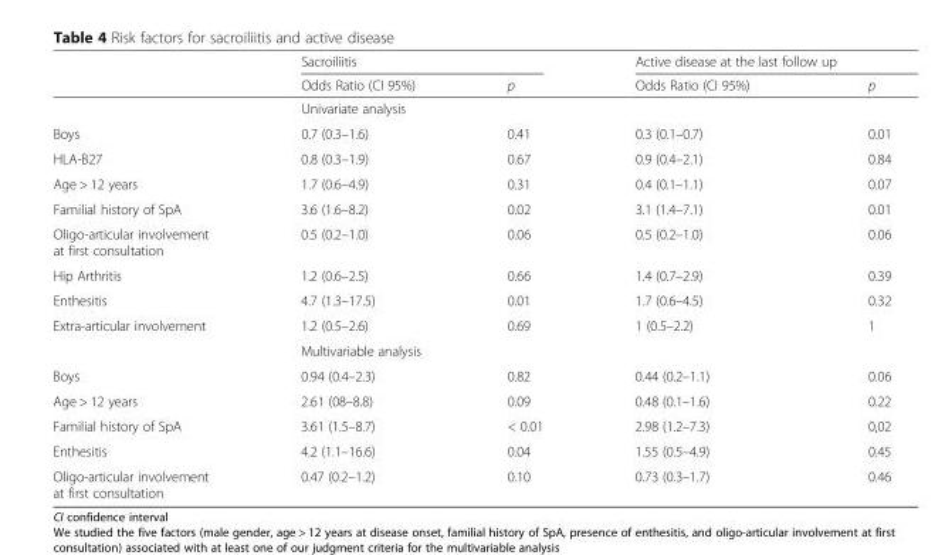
<table><thead><tr><td rowspan="2"></td><td colspan="2">Sacroiliitis</td><td colspan="2">Active disease at the last follow up</td></tr><tr><td>Odds Ratio (CI 95%)</td><td>p</td><td>Odds Ratio (CI 95%)</td><td>p</td></tr></thead><tbody><tr><td></td><td colspan="4">Univariate analysis</td></tr><tr><td>Boys</td><td>0.7 (0.3–1.6)</td><td>0.41</td><td>0.3 (0.1–0.7)</td><td>0.01</td></tr><tr><td>HLA-B27</td><td>0.8 (0.3–1.9)</td><td>0.67</td><td>0.9 (0.4–2.1)</td><td>0.84</td></tr><tr><td>Age &gt; 12 years</td><td>1.7 (0.6–4.9)</td><td>0.31</td><td>0.4 (0.1–1.1)</td><td>0.07</td></tr><tr><td>Familial history of SpA</td><td>3.6 (1.6–8.2)</td><td>0.02</td><td>3.1 (1.4–7.1)</td><td>0.01</td></tr><tr><td>Oligo-articular involvement at first consultation</td><td>0.5 (0.2–1.0)</td><td>0.06</td><td>0.5 (0.2–1.0)</td><td>0.06</td></tr><tr><td>Hip Arthritis</td><td>1.2 (0.6–2.5)</td><td>0.66</td><td>1.4 (0.7–2.9)</td><td>0.39</td></tr><tr><td>Enthesitis</td><td>4.7 (1.3–17.5)</td><td>0.01</td><td>1.7 (0.6–4.5)</td><td>0.32</td></tr><tr><td rowspan="2">Extra-articular involvement</td><td>1.2 (0.5–2.6)</td><td>0.69</td><td>1 (0.5–2.2)</td><td>1</td></tr><tr><td colspan="4">Multivariable analysis</td></tr><tr><td>Boys</td><td>0.94 (0.4–2.3)</td><td>0.82</td><td>0.44 (0.2–1.1)</td><td>0.06</td></tr><tr><td>Age &gt; 12 years</td><td>2.61 (08–8.8)</td><td>0.09</td><td>0.48 (0.1–1.6)</td><td>0.22</td></tr><tr><td>Familial history of SpA</td><td>3.61 (1.5–8.7)</td><td>&lt; 0.01</td><td>2.98 (1.2–7.3)</td><td>0,02</td></tr><tr><td>Enthesitis</td><td>4.2 (1.1–16.6)</td><td>0.04</td><td>1.55 (0.5–4.9)</td><td>0.45</td></tr><tr><td>Oligo-articular involvement at first consultation</td><td>0.47 (0.2–1.2)</td><td>0.10</td><td>0.73 (0.3–1.7)</td><td>0.46</td></tr></tbody></table>